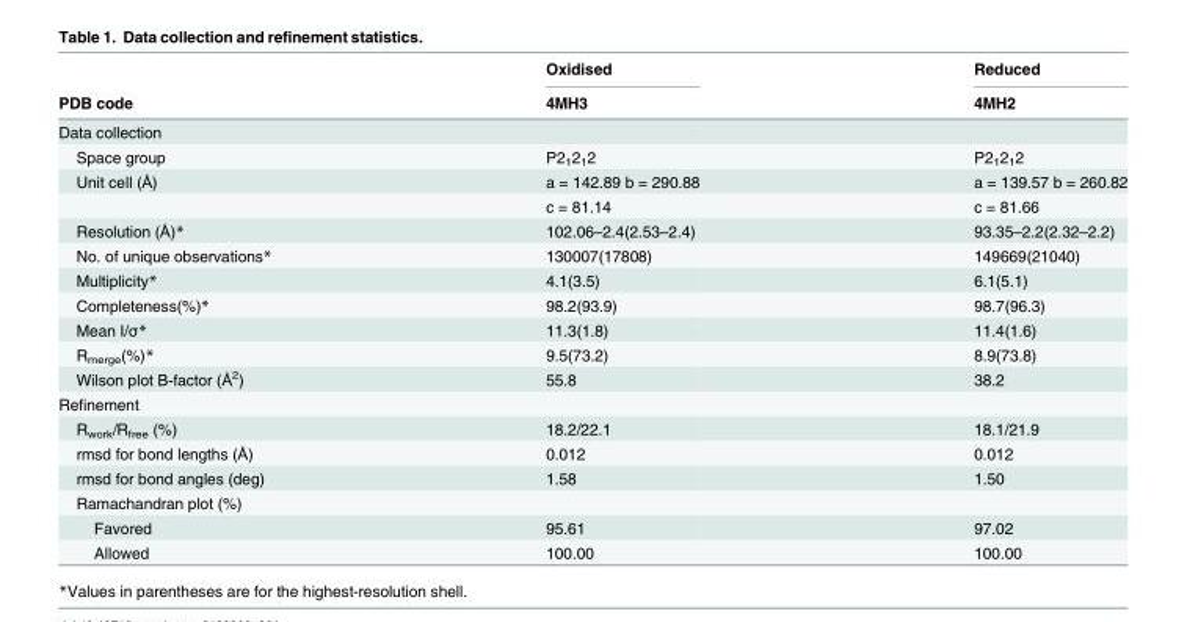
<table><thead><tr><td rowspan="2">PDB code</td><td rowspan="2">Oxidised 4MH3</td><td rowspan="2">Reduced 4MH2</td></tr><tr></tr></thead><tbody><tr><td colspan="3">Data collection</td></tr><tr><td>Space group</td><td>P2<sub>1</sub>2<sub>1</sub>2</td><td>P2<sub>1</sub>2<sub>1</sub>2</td></tr><tr><td rowspan="2">Unit cell (Å)</td><td>a = 142.89 b = 290.88</td><td>a = 139.57 b = 260.82</td></tr><tr><td>c = 81.14</td><td>c = 81.66</td></tr><tr><td>Resolution (Å)*</td><td>102.06–2.4(2.53–2.4)</td><td>93.35–2.2(2.32–2.2)</td></tr><tr><td>No. of unique observations*</td><td>130007(17808)</td><td>149669(21040)</td></tr><tr><td>Multiplicity*</td><td>4.1(3.5)</td><td>6.1(5.1)</td></tr><tr><td>Completeness(%)*</td><td>98.2(93.9)</td><td>98.7(96.3)</td></tr><tr><td>Mean I/σ*</td><td>11.3(1.8)</td><td>11.4(1.6)</td></tr><tr><td>R<sub>merge</sub>(%)*</td><td>9.5(73.2)</td><td>8.9(73.8)</td></tr><tr><td>Wilson plot B-factor (Å<sup>2</sup>)</td><td>55.8</td><td>38.2</td></tr><tr><td colspan="3">Refinement</td></tr><tr><td>R<sub>work</sub>/R<sub>free</sub> (%)</td><td>18.2/22.1</td><td>18.1/21.9</td></tr><tr><td>rmsd for bond lengths (Å)</td><td>0.012</td><td>0.012</td></tr><tr><td>rmsd for bond angles (deg)</td><td>1.58</td><td>1.50</td></tr><tr><td colspan="3">Ramachandran plot (%)</td></tr><tr><td>Favored</td><td>95.61</td><td>97.02</td></tr><tr><td>Allowed</td><td>100.00</td><td>100.00</td></tr></tbody></table>